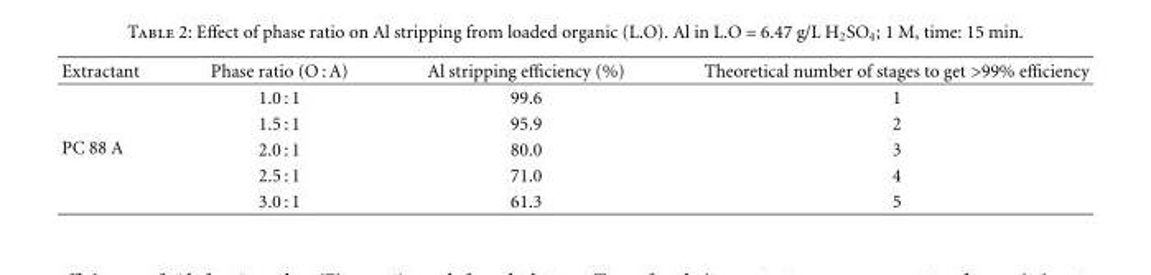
<table><thead><tr><td>Extractant</td><td>Phase ratio (O : A)</td><td>Al stripping efficiency (%)</td><td>Theoretical number of stages to get &gt;99% efficiency</td></tr></thead><tbody><tr><td rowspan="5">PC 88 A</td><td>1.0 : 1</td><td>99.6</td><td>1</td></tr><tr><td>1.5 : 1</td><td>95.9</td><td>2</td></tr><tr><td>2.0 : 1</td><td>80.0</td><td>3</td></tr><tr><td>2.5 : 1</td><td>71.0</td><td>4</td></tr><tr><td>3.0 : 1</td><td>61.3</td><td>5</td></tr></tbody></table>